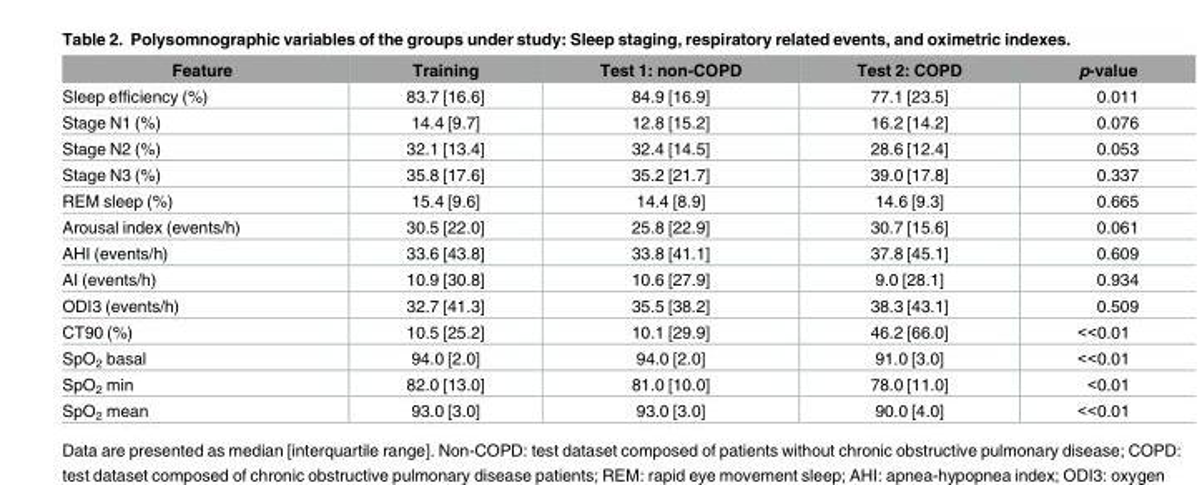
<table><thead><tr><td>Feature</td><td>Training</td><td>Test 1: non-COPD</td><td>Test 2: COPD</td><td>p-value</td></tr></thead><tbody><tr><td>Sleep efficiency (%)</td><td>83.7 [16.6]</td><td>84.9 [16.9]</td><td>77.1 [23.5]</td><td>0.011</td></tr><tr><td>Stage N1 (%)</td><td>14.4 [9.7]</td><td>12.8 [15.2]</td><td>16.2 [14.2]</td><td>0.076</td></tr><tr><td>Stage N2 (%)</td><td>32.1 [13.4]</td><td>32.4 [14.5]</td><td>28.6 [12.4]</td><td>0.053</td></tr><tr><td>Stage N3 (%)</td><td>35.8 [17.6]</td><td>35.2 [21.7]</td><td>39.0 [17.8]</td><td>0.337</td></tr><tr><td>REM sleep (%)</td><td>15.4 [9.6]</td><td>14.4 [8.9]</td><td>14.6 [9.3]</td><td>0.665</td></tr><tr><td>Arousal index (events/h)</td><td>30.5 [22.0]</td><td>25.8 [22.9]</td><td>30.7 [15.6]</td><td>0.061</td></tr><tr><td>AHI (events/h)</td><td>33.6 [43.8]</td><td>33.8 [41.1]</td><td>37.8 [45.1]</td><td>0.609</td></tr><tr><td>AI (events/h)</td><td>10.9 [30.8]</td><td>10.6 [27.9]</td><td>9.0 [28.1]</td><td>0.934</td></tr><tr><td>ODI3 (events/h)</td><td>32.7 [41.3]</td><td>35.5 [38.2]</td><td>38.3 [43.1]</td><td>0.509</td></tr><tr><td>CT90 (%)</td><td>10.5 [25.2]</td><td>10.1 [29.9]</td><td>46.2 [66.0]</td><td>&lt;&lt;0.01</td></tr><tr><td>SpO<sub>2</sub> basal</td><td>94.0 [2.0]</td><td>94.0 [2.0]</td><td>91.0 [3.0]</td><td>&lt;&lt;0.01</td></tr><tr><td>SpO<sub>2</sub> min</td><td>82.0 [13.0]</td><td>81.0 [10.0]</td><td>78.0 [11.0]</td><td>&lt;0.01</td></tr><tr><td>SpO<sub>2</sub> mean</td><td>93.0 [3.0]</td><td>93.0 [3.0]</td><td>90.0 [4.0]</td><td>&lt;&lt;0.01</td></tr></tbody></table>